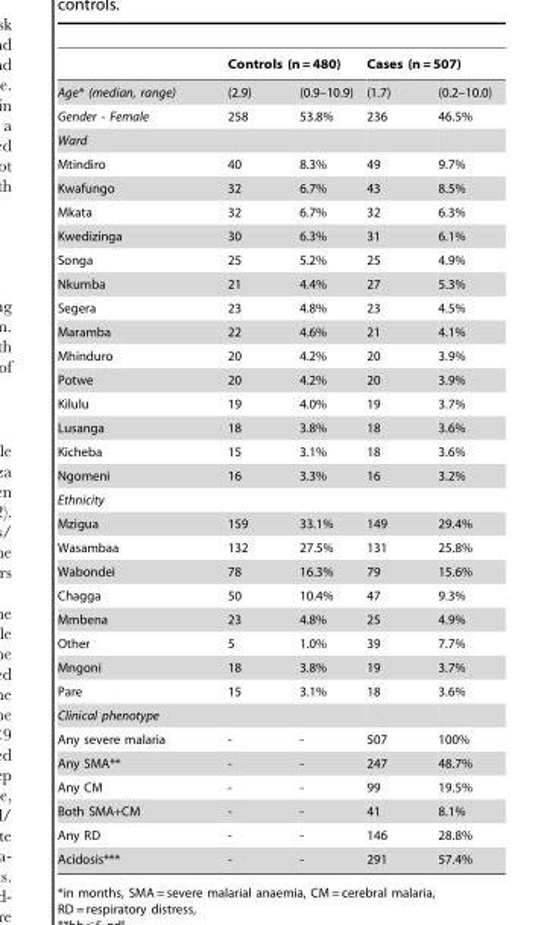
<table><thead><tr><td rowspan="2">Age* (median, range)</td><td colspan="2">Controls (n = 480)</td><td colspan="2">Cases (n = 507)</td></tr><tr><td>(2.9)</td><td>(0.9–10.9)</td><td>(1.7)</td><td>(0.2–10.0)</td></tr></thead><tbody><tr><td>Gender - Female</td><td>258</td><td>53.8%</td><td>236</td><td>46.5%</td></tr><tr><td colspan="5">Ward</td></tr><tr><td>Mtindiro</td><td>40</td><td>8.3%</td><td>49</td><td>9.7%</td></tr><tr><td>Kwafungo</td><td>32</td><td>6.7%</td><td>43</td><td>8.5%</td></tr><tr><td>Mkata</td><td>32</td><td>6.7%</td><td>32</td><td>6.3%</td></tr><tr><td>Kwedizinga</td><td>30</td><td>6.3%</td><td>31</td><td>6.1%</td></tr><tr><td>Songa</td><td>25</td><td>5.2%</td><td>25</td><td>4.9%</td></tr><tr><td>Nkumba</td><td>21</td><td>4.4%</td><td>27</td><td>5.3%</td></tr><tr><td>Segera</td><td>23</td><td>4.8%</td><td>23</td><td>4.5%</td></tr><tr><td>Maramba</td><td>22</td><td>4.6%</td><td>21</td><td>4.1%</td></tr><tr><td>Mhinduro</td><td>20</td><td>4.2%</td><td>20</td><td>3.9%</td></tr><tr><td>Potwe</td><td>20</td><td>4.2%</td><td>20</td><td>3.9%</td></tr><tr><td>Kilulu</td><td>19</td><td>4.0%</td><td>19</td><td>3.7%</td></tr><tr><td>Lusanga</td><td>18</td><td>3.8%</td><td>18</td><td>3.6%</td></tr><tr><td>Kicheba</td><td>15</td><td>3.1%</td><td>18</td><td>3.6%</td></tr><tr><td>Ngomeni</td><td>16</td><td>3.3%</td><td>16</td><td>3.2%</td></tr><tr><td colspan="5">Ethnicity</td></tr><tr><td>Mzigua</td><td>159</td><td>33.1%</td><td>149</td><td>29.4%</td></tr><tr><td>Wasambaa</td><td>132</td><td>27.5%</td><td>131</td><td>25.8%</td></tr><tr><td>Wabondei</td><td>78</td><td>16.3%</td><td>79</td><td>15.6%</td></tr><tr><td>Chagga</td><td>50</td><td>10.4%</td><td>47</td><td>9.3%</td></tr><tr><td>Mmbena</td><td>23</td><td>4.8%</td><td>25</td><td>4.9%</td></tr><tr><td>Other</td><td>5</td><td>1.0%</td><td>39</td><td>7.7%</td></tr><tr><td>Mngoni</td><td>18</td><td>3.8%</td><td>19</td><td>3.7%</td></tr><tr><td>Pare</td><td>15</td><td>3.1%</td><td>18</td><td>3.6%</td></tr><tr><td colspan="5">Clinical phenotype</td></tr><tr><td>Any severe malaria</td><td>-</td><td>-</td><td>507</td><td>100%</td></tr><tr><td>Any SMA**</td><td>-</td><td>-</td><td>247</td><td>48.7%</td></tr><tr><td>Any CM</td><td>-</td><td>-</td><td>99</td><td>19.5%</td></tr><tr><td>Both SMA+CM</td><td>-</td><td>-</td><td>41</td><td>8.1%</td></tr><tr><td>Any RD</td><td>-</td><td>-</td><td>146</td><td>28.8%</td></tr><tr><td>Acidosis***</td><td>-</td><td>-</td><td>291</td><td>57.4%</td></tr></tbody></table>